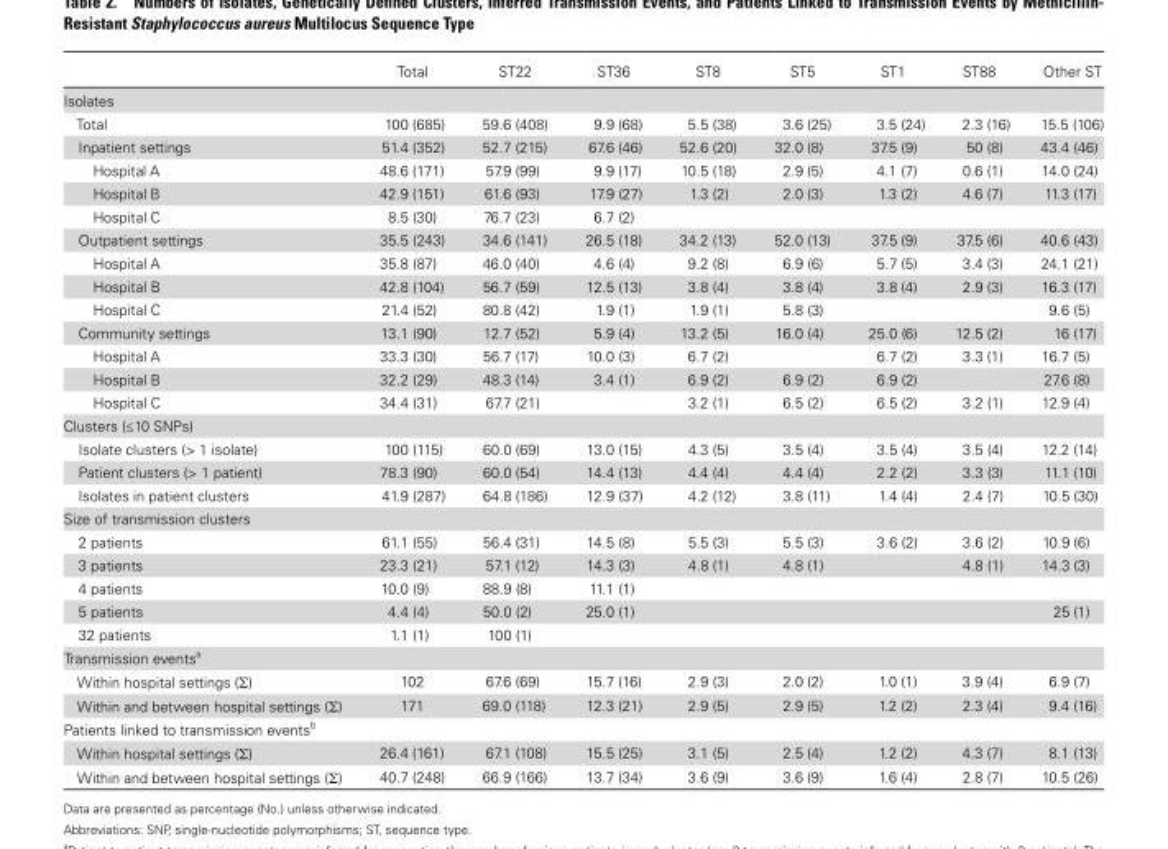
<table><thead><tr><td></td><td>Total</td><td>ST22</td><td>ST36</td><td>ST8</td><td>ST5</td><td>ST1</td><td>ST88</td><td>Other ST</td></tr></thead><tbody><tr><td colspan="9">Isolates</td></tr><tr><td>Total</td><td>100 (685)</td><td>59.6 (408)</td><td>9.9 (68)</td><td>5.5 (38)</td><td>3.6 (25)</td><td>3.5 (24)</td><td>2.3 (16)</td><td>15.5 (106)</td></tr><tr><td>Inpatient settings</td><td>51.4 (352)</td><td>52.7 (215)</td><td>67.6 (46)</td><td>52.6 (20)</td><td>32.0 (8)</td><td>37.5 (9)</td><td>50 (8)</td><td>43.4 (46)</td></tr><tr><td>Hospital A</td><td>48.6 (171)</td><td>57.9 (99)</td><td>9.9 (17)</td><td>10.5 (18)</td><td>2.9 (5)</td><td>4.1 (7)</td><td>0.6 (1)</td><td>14.0 (24)</td></tr><tr><td>Hospital B</td><td>42.9 (151)</td><td>61.6 (93)</td><td>17.9 (27)</td><td>1.3 (2)</td><td>2.0 (3)</td><td>1.3 (2)</td><td>4.6 (7)</td><td>11.3 (17)</td></tr><tr><td>Hospital C</td><td>8.5 (30)</td><td>76.7 (23)</td><td>6.7 (2)</td><td></td><td></td><td></td><td></td><td></td></tr><tr><td>Outpatient settings</td><td>35.5 (243)</td><td>34.6 (141)</td><td>26.5 (18)</td><td>34.2 (13)</td><td>52.0 (13)</td><td>37.5 (9)</td><td>37.5 (6)</td><td>40.6 (43)</td></tr><tr><td>Hospital A</td><td>35.8 (87)</td><td>46.0 (40)</td><td>4.6 (4)</td><td>9.2 (8)</td><td>6.9 (6)</td><td>5.7 (5)</td><td>3.4 (3)</td><td>24.1 (21)</td></tr><tr><td>Hospital B</td><td>42.8 (104)</td><td>56.7 (59)</td><td>12.5 (13)</td><td>3.8 (4)</td><td>3.8 (4)</td><td>3.8 (4)</td><td>2.9 (3)</td><td>16.3 (17)</td></tr><tr><td>Hospital C</td><td>21.4 (52)</td><td>80.8 (42)</td><td>1.9 (1)</td><td>1.9 (1)</td><td>5.8 (3)</td><td></td><td></td><td>9.6 (5)</td></tr><tr><td>Community settings</td><td>13.1 (90)</td><td>12.7 (52)</td><td>5.9 (4)</td><td>13.2 (5)</td><td>16.0 (4)</td><td>25.0 (6)</td><td>12.5 (2)</td><td>16 (17)</td></tr><tr><td>Hospital A</td><td>33.3 (30)</td><td>56.7 (17)</td><td>10.0 (3)</td><td>6.7 (2)</td><td></td><td>6.7 (2)</td><td>3.3 (1)</td><td>16.7 (5)</td></tr><tr><td>Hospital B</td><td>32.2 (29)</td><td>48.3 (14)</td><td>3.4 (1)</td><td>6.9 (2)</td><td>6.9 (2)</td><td>6.9 (2)</td><td></td><td>27.6 (8)</td></tr><tr><td>Hospital C</td><td>34.4 (31)</td><td>67.7 (21)</td><td></td><td>3.2 (1)</td><td>6.5 (2)</td><td>6.5 (2)</td><td>3.2 (1)</td><td>12.9 (4)</td></tr><tr><td colspan="9">Clusters (≤10 SNPs)</td></tr><tr><td>Isolate clusters (&gt; 1 isolate)</td><td>100 (115)</td><td>60.0 (69)</td><td>13.0 (15)</td><td>4.3 (5)</td><td>3.5 (4)</td><td>3.5 (4)</td><td>3.5 (4)</td><td>12.2 (14)</td></tr><tr><td>Patient clusters (&gt; 1 patient)</td><td>78.3 (90)</td><td>60.0 (54)</td><td>14.4 (13)</td><td>4.4 (4)</td><td>4.4 (4)</td><td>2.2 (2)</td><td>3.3 (3)</td><td>11.1 (10)</td></tr><tr><td>Isolates in patient clusters</td><td>41.9 (287)</td><td>64.8 (186)</td><td>12.9 (37)</td><td>4.2 (12)</td><td>3.8 (11)</td><td>1.4 (4)</td><td>2.4 (7)</td><td>10.5 (30)</td></tr><tr><td colspan="9">Size of transmission clusters</td></tr><tr><td>2 patients</td><td>61.1 (55)</td><td>56.4 (31)</td><td>14.5 (8)</td><td>5.5 (3)</td><td>5.5 (3)</td><td>3.6 (2)</td><td>3.6 (2)</td><td>10.9 (6)</td></tr><tr><td>3 patients</td><td>23.3 (21)</td><td>57.1 (12)</td><td>14.3 (3)</td><td>4.8 (1)</td><td>4.8 (1)</td><td></td><td>4.8 (1)</td><td>14.3 (3)</td></tr><tr><td>4 patients</td><td>10.0 (9)</td><td>88.9 (8)</td><td>11.1 (1)</td><td></td><td></td><td></td><td></td><td></td></tr><tr><td>5 patients</td><td>4.4 (4)</td><td>50.0 (2)</td><td>25.0 (1)</td><td></td><td></td><td></td><td></td><td>25 (1)</td></tr><tr><td>32 patients</td><td>1.1 (1)</td><td>100 (1)</td><td></td><td></td><td></td><td></td><td></td><td></td></tr><tr><td colspan="9">Transmission events<sup>a</sup></td></tr><tr><td>Within hospital settings (Σ)</td><td>102</td><td>67.6 (69)</td><td>15.7 (16)</td><td>2.9 (3)</td><td>2.0 (2)</td><td>1.0 (1)</td><td>3.9 (4)</td><td>6.9 (7)</td></tr><tr><td>Within and between hospital settings (Σ)</td><td>171</td><td>69.0 (118)</td><td>12.3 (21)</td><td>2.9 (5)</td><td>2.9 (5)</td><td>1.2 (2)</td><td>2.3 (4)</td><td>9.4 (16)</td></tr><tr><td colspan="9">Patients linked to transmission events<sup>b</sup></td></tr><tr><td>Within hospital settings (Σ)</td><td>26.4 (161)</td><td>67.1 (108)</td><td>15.5 (25)</td><td>3.1 (5)</td><td>2.5 (4)</td><td>1.2 (2)</td><td>4.3 (7)</td><td>8.1 (13)</td></tr><tr><td>Within and between hospital settings (Σ)</td><td>40.7 (248)</td><td>66.9 (166)</td><td>13.7 (34)</td><td>3.6 (9)</td><td>3.6 (9)</td><td>1.6 (4)</td><td>2.8 (7)</td><td>10.5 (26)</td></tr></tbody></table>